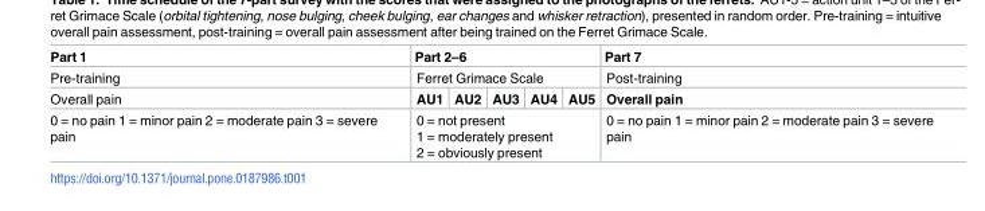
<table><thead><tr><td rowspan="3">Part 1 Pre-training Overall pain</td><td rowspan="2" colspan="5">Part 2–6 Ferret Grimace Scale</td><td rowspan="3">Part 7 Post-training Overall pain</td></tr><tr></tr><tr><td>AU1</td><td>AU2</td><td>AU3</td><td>AU4</td><td>AU5</td></tr></thead><tbody><tr><td>0 = no pain 1 = minor pain 2 = moderate pain 3 = severe pain</td><td colspan="5">0 = not present 1 = moderately present 2 = obviously present</td><td>0 = no pain 1 = minor pain 2 = moderate pain 3 = severe pain</td></tr></tbody></table>